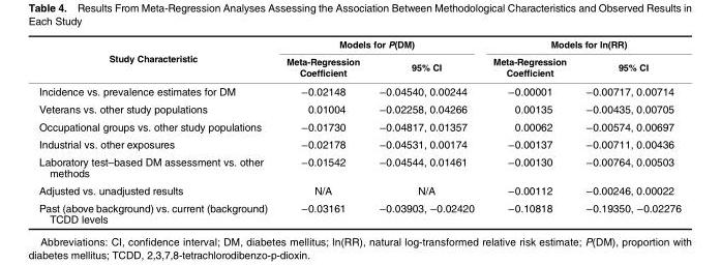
<table><thead><tr><td rowspan="2">Study Characteristic</td><td colspan="2">Models for P(DM)</td><td colspan="2">Models for ln(RR)</td></tr><tr><td>Meta-Regression Coefficient</td><td>95% CI</td><td>Meta-Regression Coefficient</td><td>95% CI</td></tr></thead><tbody><tr><td>Incidence vs. prevalence estimates for DM</td><td>−0.02148</td><td>−0.04540, 0.00244</td><td>−0.00001</td><td>−0.00717, 0.00714</td></tr><tr><td>Veterans vs. other study populations</td><td>0.01004</td><td>−0.02258, 0.04266</td><td>0.00135</td><td>−0.00435, 0.00705</td></tr><tr><td>Occupational groups vs. other study populations</td><td>−0.01730</td><td>−0.04817, 0.01357</td><td>0.00062</td><td>−0.00574, 0.00697</td></tr><tr><td>Industrial vs. other exposures</td><td>−0.02178</td><td>−0.04531, 0.00174</td><td>−0.00137</td><td>−0.00711, 0.00436</td></tr><tr><td>Laboratory test–based DM assessment vs. other methods</td><td>−0.01542</td><td>−0.04544, 0.01461</td><td>−0.00130</td><td>−0.00764, 0.00503</td></tr><tr><td>Adjusted vs. unadjusted results</td><td>N/A</td><td>N/A</td><td>−0.00112</td><td>−0.00246, 0.00022</td></tr><tr><td>Past (above background) vs. current (background) TCDD levels</td><td>−0.03161</td><td>−0.03903, −0.02420</td><td>−0.10818</td><td>−0.19350, −0.02276</td></tr></tbody></table>